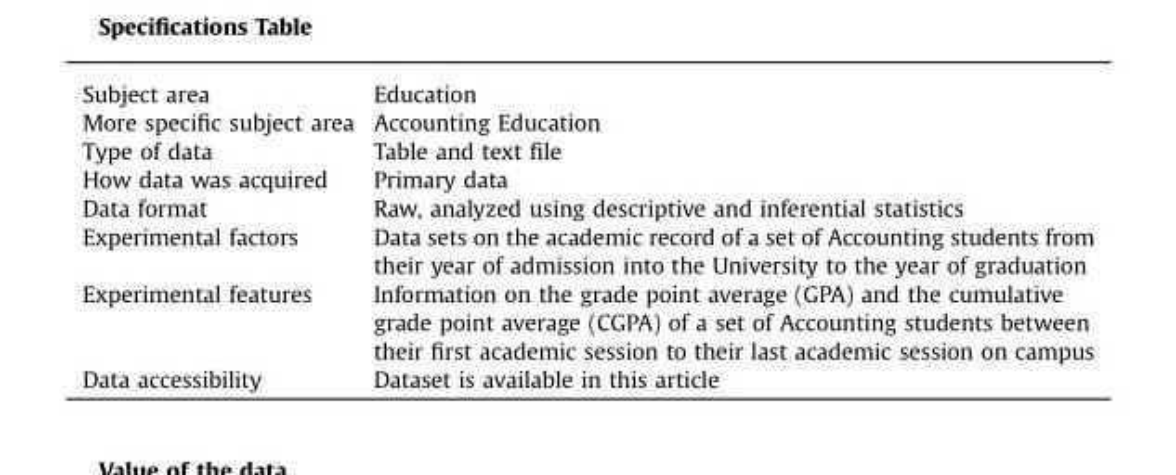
<table><tbody><tr><td>Subject area</td><td>Education</td></tr><tr><td>More specific subject area</td><td>Accounting Education</td></tr><tr><td>Type of data</td><td>Table and text file</td></tr><tr><td>How data was acquired</td><td>Primary data</td></tr><tr><td>Data format</td><td>Raw, analyzed using descriptive and inferential statistics</td></tr><tr><td>Experimental factors</td><td>Data sets on the academic record of a set of Accounting students from their year of admission into the University to the year of graduation</td></tr><tr><td>Experimental features</td><td>Information on the grade point average (GPA) and the cumulative grade point average (CGPA) of a set of Accounting students between their first academic session to their last academic session on campus</td></tr><tr><td>Data accessibility</td><td>Dataset is available in this article</td></tr></tbody></table>